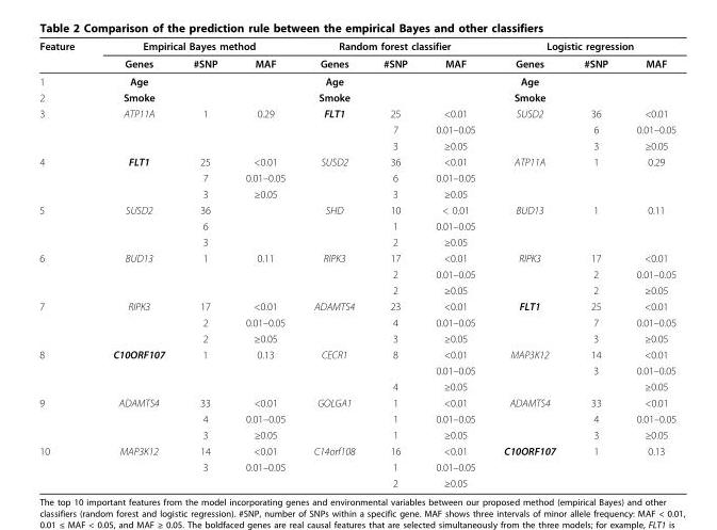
<table><thead><tr><td rowspan="2">Feature</td><td colspan="3">Empirical Bayes method</td><td colspan="3">Random forest classifier</td><td colspan="3">Logistic regression</td></tr><tr><td>Genes</td><td>#SNP</td><td>MAF</td><td>Genes</td><td>#SNP</td><td>MAF</td><td>Genes</td><td>#SNP</td><td>MAF</td></tr></thead><tbody><tr><td>1</td><td>Age</td><td></td><td></td><td>Age</td><td></td><td></td><td>Age</td><td></td><td></td></tr><tr><td>2</td><td>Smoke</td><td></td><td></td><td>Smoke</td><td></td><td></td><td>Smoke</td><td></td><td></td></tr><tr><td rowspan="3">3</td><td>ATP11A</td><td>1</td><td>0.29</td><td>FLT1</td><td>25</td><td>&lt;0.01</td><td>SUSD2</td><td>36</td><td>&lt;0.01</td></tr><tr><td></td><td></td><td></td><td></td><td>7</td><td>0.01–0.05</td><td></td><td>6</td><td>0.01–0.05</td></tr><tr><td></td><td></td><td></td><td></td><td>3</td><td>≥0.05</td><td></td><td>3</td><td>≥0.05</td></tr><tr><td rowspan="3">4</td><td>FLT1</td><td>25</td><td>&lt;0.01</td><td>SUSD2</td><td>36</td><td>&lt;0.01</td><td>ATP11A</td><td>1</td><td>0.29</td></tr><tr><td></td><td>7</td><td>0.01–0.05</td><td></td><td>6</td><td>0.01–0.05</td><td></td><td></td><td></td></tr><tr><td></td><td>3</td><td>≥0.05</td><td></td><td>3</td><td>≥0.05</td><td></td><td></td><td></td></tr><tr><td rowspan="3">5</td><td>SUSD2</td><td>36</td><td></td><td>SHD</td><td>10</td><td>&lt; 0.01</td><td>BUD13</td><td>1</td><td>0.11</td></tr><tr><td></td><td>6</td><td></td><td></td><td>1</td><td>0.01–0.05</td><td></td><td></td><td></td></tr><tr><td></td><td>3</td><td></td><td></td><td>2</td><td>≥0.05</td><td></td><td></td><td></td></tr><tr><td rowspan="3">6</td><td>BUD13</td><td>1</td><td>0.11</td><td>RIPK3</td><td>17</td><td>&lt;0.01</td><td>RIPK3</td><td>17</td><td>&lt;0.01</td></tr><tr><td></td><td></td><td></td><td></td><td>2</td><td>0.01–0.05</td><td></td><td>2</td><td>0.01–0.05</td></tr><tr><td></td><td></td><td></td><td></td><td>2</td><td>≥0.05</td><td></td><td>2</td><td>≥0.05</td></tr><tr><td rowspan="3">7</td><td>RIPK3</td><td>17</td><td>&lt;0.01</td><td>ADAMTS4</td><td>23</td><td>&lt;0.01</td><td>FLT1</td><td>25</td><td>&lt;0.01</td></tr><tr><td></td><td>2</td><td>0.01–0.05</td><td></td><td>4</td><td>0.01–0.05</td><td></td><td>7</td><td>0.01–0.05</td></tr><tr><td></td><td>2</td><td>≥0.05</td><td></td><td>3</td><td>≥0.05</td><td></td><td>3</td><td>≥0.05</td></tr><tr><td rowspan="3">8</td><td>C10ORF107</td><td>1</td><td>0.13</td><td>CECR1</td><td>8</td><td>&lt;0.01</td><td>MAP3K12</td><td>14</td><td>&lt;0.01</td></tr><tr><td></td><td></td><td></td><td></td><td></td><td>0.01–0.05</td><td></td><td>3</td><td>0.01–0.05</td></tr><tr><td></td><td></td><td></td><td></td><td>4</td><td>≥0.05</td><td></td><td></td><td>≥0.05</td></tr><tr><td rowspan="3">9</td><td>ADAMTS4</td><td>33</td><td>&lt;0.01</td><td>GOLGA1</td><td>1</td><td>&lt;0.01</td><td>ADAMTS4</td><td>33</td><td>&lt;0.01</td></tr><tr><td></td><td>4</td><td>0.01–0.05</td><td></td><td>1</td><td>0.01–0.05</td><td></td><td>4</td><td>0.01–0.05</td></tr><tr><td></td><td>3</td><td>≥0.05</td><td></td><td>1</td><td>≥0.05</td><td></td><td>3</td><td>≥0.05</td></tr><tr><td rowspan="3">10</td><td>MAP3K12</td><td>14</td><td>&lt;0.01</td><td>C14orf108</td><td>16</td><td>&lt;0.01</td><td>C10ORF107</td><td>1</td><td>0.13</td></tr><tr><td></td><td>3</td><td>0.01–0.05</td><td></td><td>1</td><td>0.01–0.05</td><td></td><td></td><td></td></tr><tr><td></td><td></td><td></td><td></td><td>2</td><td>≥0.05</td><td></td><td></td><td></td></tr></tbody></table>